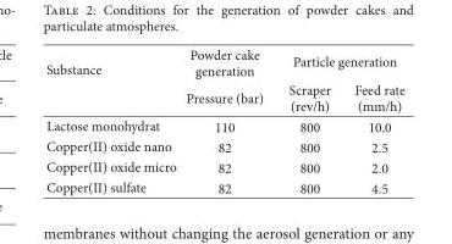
<table><thead><tr><td rowspan="2">Substance</td><td rowspan="2">Powder cake generation Pressure (bar)</td><td colspan="2">Particle generation</td></tr><tr><td>Scraper (rev/h)</td><td>Feed rate (mm/h)</td></tr></thead><tbody><tr><td>Lactose monohydrat</td><td>110</td><td>800</td><td>10.0</td></tr><tr><td>Copper(II) oxide nano</td><td>82</td><td>800</td><td>2.5</td></tr><tr><td>Copper(II) oxide micro</td><td>82</td><td>800</td><td>2.0</td></tr><tr><td>Copper(II) sulfate</td><td>82</td><td>800</td><td>4.5</td></tr></tbody></table>